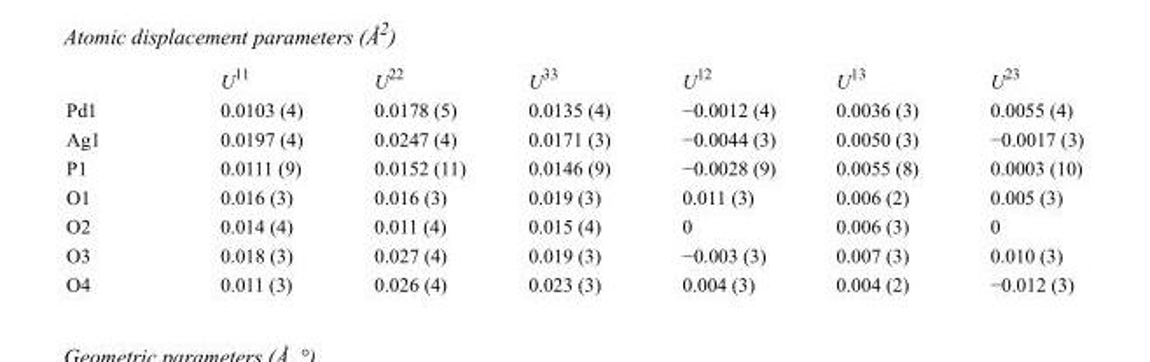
<table><thead><tr><td></td><td>U<sup>11</sup></td><td>U<sup>22</sup></td><td>U<sup>33</sup></td><td>U<sup>12</sup></td><td>U<sup>13</sup></td><td>U<sup>23</sup></td></tr></thead><tbody><tr><td>Pd1</td><td>0.0103 (4)</td><td>0.0178 (5)</td><td>0.0135 (4)</td><td>−0.0012 (4)</td><td>0.0036 (3)</td><td>0.0055 (4)</td></tr><tr><td>Ag1</td><td>0.0197 (4)</td><td>0.0247 (4)</td><td>0.0171 (3)</td><td>−0.0044 (3)</td><td>0.0050 (3)</td><td>−0.0017 (3)</td></tr><tr><td>P1</td><td>0.0111 (9)</td><td>0.0152 (11)</td><td>0.0146 (9)</td><td>−0.0028 (9)</td><td>0.0055 (8)</td><td>0.0003 (10)</td></tr><tr><td>O1</td><td>0.016 (3)</td><td>0.016 (3)</td><td>0.019 (3)</td><td>0.011 (3)</td><td>0.006 (2)</td><td>0.005 (3)</td></tr><tr><td>O2</td><td>0.014 (4)</td><td>0.011 (4)</td><td>0.015 (4)</td><td>0</td><td>0.006 (3)</td><td>0</td></tr><tr><td>O3</td><td>0.018 (3)</td><td>0.027 (4)</td><td>0.019 (3)</td><td>−0.003 (3)</td><td>0.007 (3)</td><td>0.010 (3)</td></tr><tr><td>O4</td><td>0.011 (3)</td><td>0.026 (4)</td><td>0.023 (3)</td><td>0.004 (3)</td><td>0.004 (2)</td><td>−0.012 (3)</td></tr></tbody></table>